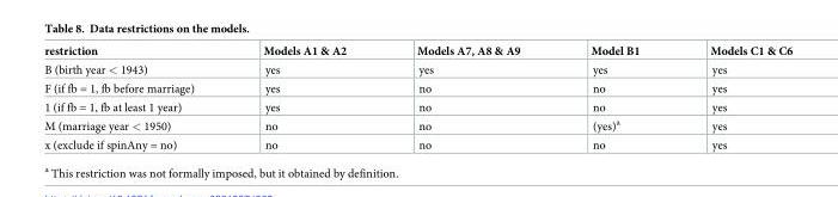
<table><thead><tr><td>restriction</td><td>Models A1 &amp; A2</td><td>Models A7, A8 &amp; A9</td><td>Model B1</td><td>Models C1 &amp; C6</td></tr></thead><tbody><tr><td>B (birth year &lt; 1943)</td><td>yes</td><td>yes</td><td>yes</td><td>yes</td></tr><tr><td>F (if fb = 1, fb before marriage)</td><td>yes</td><td>no</td><td>no</td><td>yes</td></tr><tr><td>1 (if fb = 1, fb at least 1 year)</td><td>yes</td><td>no</td><td>no</td><td>yes</td></tr><tr><td>M (marriage year &lt; 1950)</td><td>no</td><td>no</td><td>(yes)<sup>a</sup></td><td>yes</td></tr><tr><td>x (exclude if spinAny = no)</td><td>no</td><td>no</td><td>no</td><td>yes</td></tr></tbody></table>